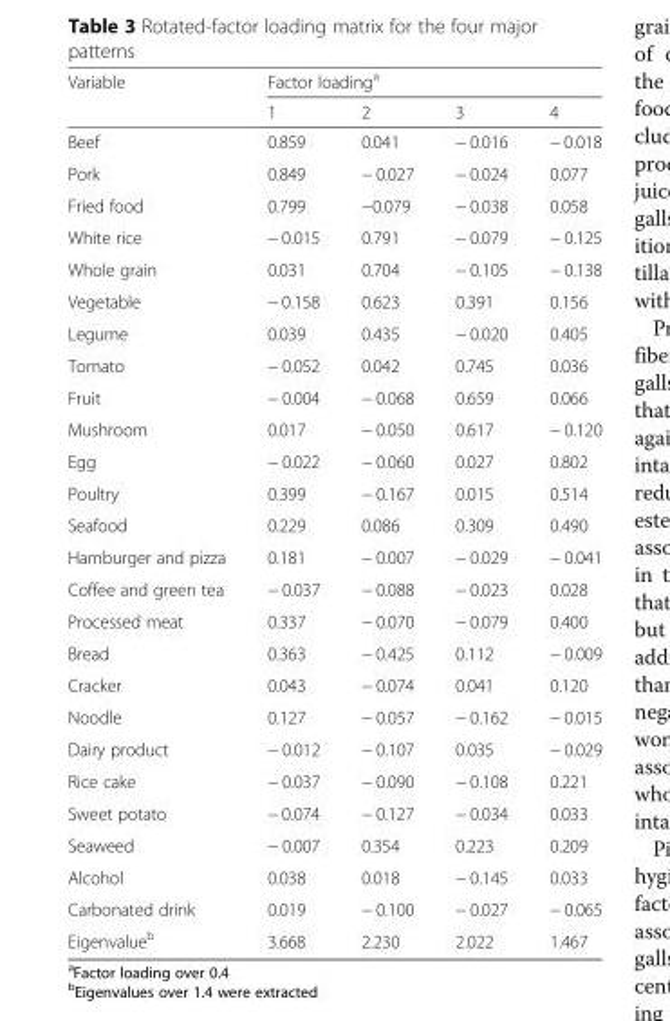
<table><thead><tr><td rowspan="2">Variable</td><td colspan="4">Factor loading<sup>a</sup></td></tr><tr><td>1</td><td>2</td><td>3</td><td>4</td></tr></thead><tbody><tr><td>Beef</td><td>0.859</td><td>0.041</td><td>− 0.016</td><td>− 0.018</td></tr><tr><td>Pork</td><td>0.849</td><td>− 0.027</td><td>− 0.024</td><td>0.077</td></tr><tr><td>Fried food</td><td>0.799</td><td>−0.079</td><td>− 0.038</td><td>0.058</td></tr><tr><td>White rice</td><td>− 0.015</td><td>0.791</td><td>− 0.079</td><td>− 0.125</td></tr><tr><td>Whole grain</td><td>0.031</td><td>0.704</td><td>− 0.105</td><td>− 0.138</td></tr><tr><td>Vegetable</td><td>− 0.158</td><td>0.623</td><td>0.391</td><td>0.156</td></tr><tr><td>Legume</td><td>0.039</td><td>0.435</td><td>− 0.020</td><td>0.405</td></tr><tr><td>Tomato</td><td>− 0.052</td><td>0.042</td><td>0.745</td><td>0.036</td></tr><tr><td>Fruit</td><td>− 0.004</td><td>− 0.068</td><td>0.659</td><td>0.066</td></tr><tr><td>Mushroom</td><td>0.017</td><td>− 0.050</td><td>0.617</td><td>− 0.120</td></tr><tr><td>Egg</td><td>− 0.022</td><td>− 0.060</td><td>0.027</td><td>0.802</td></tr><tr><td>Poultry</td><td>0.399</td><td>− 0.167</td><td>0.015</td><td>0.514</td></tr><tr><td>Seafood</td><td>0.229</td><td>0.086</td><td>0.309</td><td>0.490</td></tr><tr><td>Hamburger and pizza</td><td>0.181</td><td>− 0.007</td><td>− 0.029</td><td>− 0.041</td></tr><tr><td>Coffee and green tea</td><td>− 0.037</td><td>− 0.088</td><td>− 0.023</td><td>0.028</td></tr><tr><td>Processed meat</td><td>0.337</td><td>− 0.070</td><td>− 0.079</td><td>0.400</td></tr><tr><td>Bread</td><td>0.363</td><td>− 0.425</td><td>0.112</td><td>− 0.009</td></tr><tr><td>Cracker</td><td>0.043</td><td>− 0.074</td><td>0.041</td><td>0.120</td></tr><tr><td>Noodle</td><td>0.127</td><td>− 0.057</td><td>− 0.162</td><td>− 0.015</td></tr><tr><td>Dairy product</td><td>− 0.012</td><td>− 0.107</td><td>0.035</td><td>− 0.029</td></tr><tr><td>Rice cake</td><td>− 0.037</td><td>− 0.090</td><td>− 0.108</td><td>0.221</td></tr><tr><td>Sweet potato</td><td>− 0.074</td><td>− 0.127</td><td>− 0.034</td><td>0.033</td></tr><tr><td>Seaweed</td><td>− 0.007</td><td>0.354</td><td>0.223</td><td>0.209</td></tr><tr><td>Alcohol</td><td>0.038</td><td>0.018</td><td>− 0.145</td><td>0.033</td></tr><tr><td>Carbonated drink</td><td>0.019</td><td>− 0.100</td><td>− 0.027</td><td>− 0.065</td></tr><tr><td>Eigenvalue<sup>b</sup></td><td>3.668</td><td>2.230</td><td>2.022</td><td>1.467</td></tr></tbody></table>